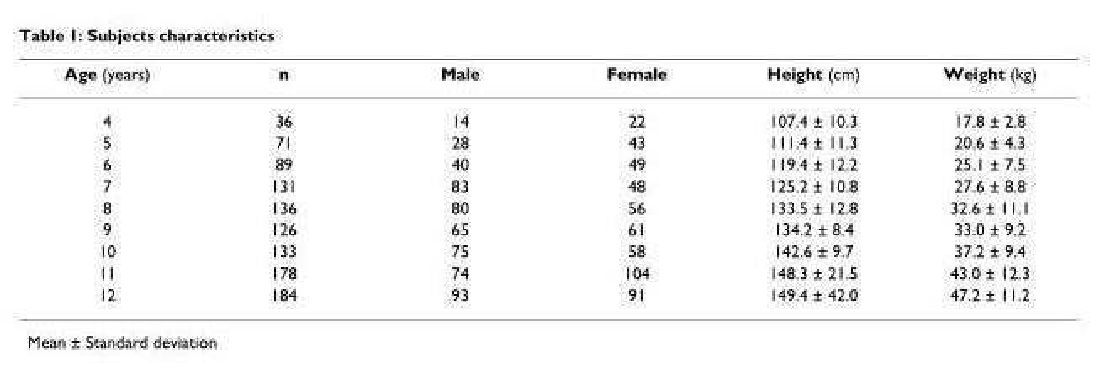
<table><thead><tr><td>Age (years)</td><td>n</td><td>Male</td><td>Female</td><td>Height (cm)</td><td>Weight (kg)</td></tr></thead><tbody><tr><td>4</td><td>36</td><td>14</td><td>22</td><td>107.4 ± 10.3</td><td>17.8 ± 2.8</td></tr><tr><td>5</td><td>71</td><td>28</td><td>43</td><td>111.4 ± 11.3</td><td>20.6 ± 4.3</td></tr><tr><td>6</td><td>89</td><td>40</td><td>49</td><td>119.4 ± 12.2</td><td>25.1 ± 7.5</td></tr><tr><td>7</td><td>131</td><td>83</td><td>48</td><td>125.2 ± 10.8</td><td>27.6 ± 8.8</td></tr><tr><td>8</td><td>136</td><td>80</td><td>56</td><td>133.5 ± 12.8</td><td>32.6 ± 11.1</td></tr><tr><td>9</td><td>126</td><td>65</td><td>61</td><td>134.2 ± 8.4</td><td>33.0 ± 9.2</td></tr><tr><td>10</td><td>133</td><td>75</td><td>58</td><td>142.6 ± 9.7</td><td>37.2 ± 9.4</td></tr><tr><td>11</td><td>178</td><td>74</td><td>104</td><td>148.3 ± 21.5</td><td>43.0 ± 12.3</td></tr><tr><td>12</td><td>184</td><td>93</td><td>91</td><td>149.4 ± 42.0</td><td>47.2 ± 11.2</td></tr></tbody></table>